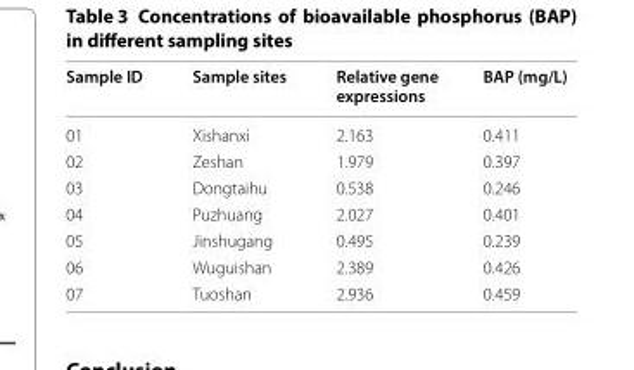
<table><thead><tr><td>Sample ID</td><td>Sample sites</td><td>Relative gene expressions</td><td>BAP (mg/L)</td></tr></thead><tbody><tr><td>01</td><td>Xishanxi</td><td>2.163</td><td>0.411</td></tr><tr><td>02</td><td>Zeshan</td><td>1.979</td><td>0.397</td></tr><tr><td>03</td><td>Dongtaihu</td><td>0.538</td><td>0.246</td></tr><tr><td>04</td><td>Puzhuang</td><td>2.027</td><td>0.401</td></tr><tr><td>05</td><td>Jinshugang</td><td>0.495</td><td>0.239</td></tr><tr><td>06</td><td>Wuguishan</td><td>2.389</td><td>0.426</td></tr><tr><td>07</td><td>Tuoshan</td><td>2.936</td><td>0.459</td></tr></tbody></table>